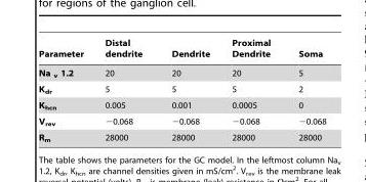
<table><thead><tr><td>Parameter</td><td>Distal dendrite</td><td>Dendrite</td><td>Proximal Dendrite</td><td>Soma</td></tr></thead><tbody><tr><td>Na <sub>v</sub> 1.2</td><td>20</td><td>20</td><td>20</td><td>5</td></tr><tr><td>K<sub>dr</sub></td><td>5</td><td>5</td><td>5</td><td>2</td></tr><tr><td>K<sub>hcn</sub></td><td>0.005</td><td>0.001</td><td>0.0005</td><td>0</td></tr><tr><td>V<sub>rev</sub></td><td>−0.068</td><td>−0.068</td><td>−0.068</td><td>−0.068</td></tr><tr><td>R<sub>m</sub></td><td>28000</td><td>28000</td><td>28000</td><td>28000</td></tr></tbody></table>